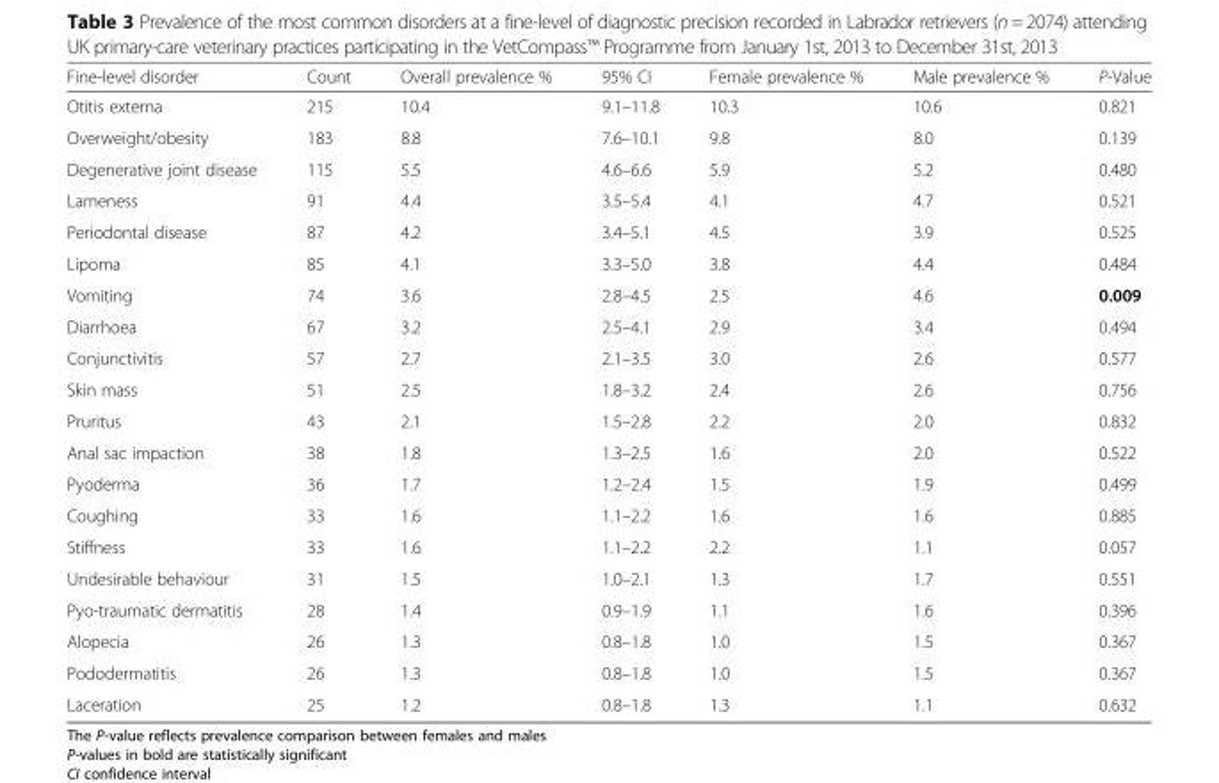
<table><thead><tr><td>Fine-level disorder</td><td>Count</td><td>Overall prevalence %</td><td>95% CI</td><td>Female prevalence %</td><td>Male prevalence %</td><td>P-Value</td></tr></thead><tbody><tr><td>Otitis externa</td><td>215</td><td>10.4</td><td>9.1–11.8</td><td>10.3</td><td>10.6</td><td>0.821</td></tr><tr><td>Overweight/obesity</td><td>183</td><td>8.8</td><td>7.6–10.1</td><td>9.8</td><td>8.0</td><td>0.139</td></tr><tr><td>Degenerative joint disease</td><td>115</td><td>5.5</td><td>4.6–6.6</td><td>5.9</td><td>5.2</td><td>0.480</td></tr><tr><td>Lameness</td><td>91</td><td>4.4</td><td>3.5–5.4</td><td>4.1</td><td>4.7</td><td>0.521</td></tr><tr><td>Periodontal disease</td><td>87</td><td>4.2</td><td>3.4–5.1</td><td>4.5</td><td>3.9</td><td>0.525</td></tr><tr><td>Lipoma</td><td>85</td><td>4.1</td><td>3.3–5.0</td><td>3.8</td><td>4.4</td><td>0.484</td></tr><tr><td>Vomiting</td><td>74</td><td>3.6</td><td>2.8–4.5</td><td>2.5</td><td>4.6</td><td>0.009</td></tr><tr><td>Diarrhoea</td><td>67</td><td>3.2</td><td>2.5–4.1</td><td>2.9</td><td>3.4</td><td>0.494</td></tr><tr><td>Conjunctivitis</td><td>57</td><td>2.7</td><td>2.1–3.5</td><td>3.0</td><td>2.6</td><td>0.577</td></tr><tr><td>Skin mass</td><td>51</td><td>2.5</td><td>1.8–3.2</td><td>2.4</td><td>2.6</td><td>0.756</td></tr><tr><td>Pruritus</td><td>43</td><td>2.1</td><td>1.5–2.8</td><td>2.2</td><td>2.0</td><td>0.832</td></tr><tr><td>Anal sac impaction</td><td>38</td><td>1.8</td><td>1.3–2.5</td><td>1.6</td><td>2.0</td><td>0.522</td></tr><tr><td>Pyoderma</td><td>36</td><td>1.7</td><td>1.2–2.4</td><td>1.5</td><td>1.9</td><td>0.499</td></tr><tr><td>Coughing</td><td>33</td><td>1.6</td><td>1.1–2.2</td><td>1.6</td><td>1.6</td><td>0.885</td></tr><tr><td>Stiffness</td><td>33</td><td>1.6</td><td>1.1–2.2</td><td>2.2</td><td>1.1</td><td>0.057</td></tr><tr><td>Undesirable behaviour</td><td>31</td><td>1.5</td><td>1.0–2.1</td><td>1.3</td><td>1.7</td><td>0.551</td></tr><tr><td>Pyo-traumatic dermatitis</td><td>28</td><td>1.4</td><td>0.9–1.9</td><td>1.1</td><td>1.6</td><td>0.396</td></tr><tr><td>Alopecia</td><td>26</td><td>1.3</td><td>0.8–1.8</td><td>1.0</td><td>1.5</td><td>0.367</td></tr><tr><td>Pododermatitis</td><td>26</td><td>1.3</td><td>0.8–1.8</td><td>1.0</td><td>1.5</td><td>0.367</td></tr><tr><td>Laceration</td><td>25</td><td>1.2</td><td>0.8–1.8</td><td>1.3</td><td>1.1</td><td>0.632</td></tr></tbody></table>